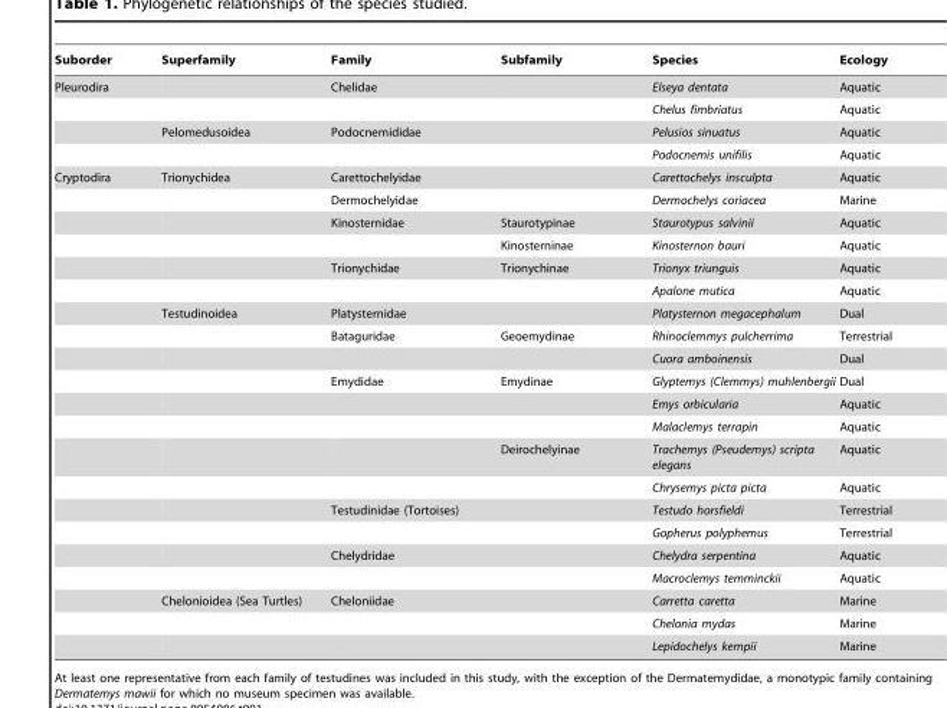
<table><thead><tr><td>Suborder</td><td>Superfamily</td><td>Family</td><td>Subfamily</td><td>Species</td><td>Ecology</td></tr></thead><tbody><tr><td rowspan="4">Pleurodira</td><td></td><td>Chelidae</td><td></td><td>Elseya dentata</td><td>Aquatic</td></tr><tr><td></td><td></td><td></td><td>Chelus fimbriatus</td><td>Aquatic</td></tr><tr><td>Pelomedusoidea</td><td>Podocnemididae</td><td></td><td>Pelusios sinuatus</td><td>Aquatic</td></tr><tr><td></td><td></td><td></td><td>Podocnemis unifilis</td><td>Aquatic</td></tr><tr><td rowspan="21">Cryptodira</td><td>Trionychidea</td><td>Carettochelyidae</td><td></td><td>Carettochelys insculpta</td><td>Aquatic</td></tr><tr><td></td><td>Dermochelyidae</td><td></td><td>Dermochelys coriacea</td><td>Marine</td></tr><tr><td></td><td>Kinosternidae</td><td>Staurotypinae</td><td>Staurotypus salvinii</td><td>Aquatic</td></tr><tr><td></td><td></td><td>Kinosterninae</td><td>Kinosternon bauri</td><td>Aquatic</td></tr><tr><td></td><td>Trionychidae</td><td>Trionychinae</td><td>Trionyx triunguis</td><td>Aquatic</td></tr><tr><td></td><td></td><td></td><td>Apalone mutica</td><td>Aquatic</td></tr><tr><td>Testudinoidea</td><td>Platysternidae</td><td></td><td>Platysternon megacephalum</td><td>Dual</td></tr><tr><td></td><td>Bataguridae</td><td>Geoemydinae</td><td>Rhinoclemmys pulcherrima</td><td>Terrestrial</td></tr><tr><td></td><td></td><td></td><td>Cuora amboinensis</td><td>Dual</td></tr><tr><td></td><td>Emydidae</td><td>Emydinae</td><td>Glyptemys (Clemmys) muhlenbergii</td><td>Dual</td></tr><tr><td></td><td></td><td></td><td>Emys orbicularia</td><td>Aquatic</td></tr><tr><td></td><td></td><td></td><td>Malaclemys terrapin</td><td>Aquatic</td></tr><tr><td></td><td></td><td>Deirochelyinae</td><td>Trachemys (Pseudemys) scripta elegans</td><td>Aquatic</td></tr><tr><td></td><td></td><td></td><td>Chrysemys picta picta</td><td>Aquatic</td></tr><tr><td></td><td>Testudinidae (Tortoises)</td><td></td><td>Testudo horsfieldi</td><td>Terrestrial</td></tr><tr><td></td><td></td><td></td><td>Gopherus polyphemus</td><td>Terrestrial</td></tr><tr><td></td><td>Chelydridae</td><td></td><td>Chelydra serpentina</td><td>Aquatic</td></tr><tr><td></td><td></td><td></td><td>Macroclemys temminckii</td><td>Aquatic</td></tr><tr><td>Chelonioidea (Sea Turtles)</td><td>Cheloniidae</td><td></td><td>Carretta caretta</td><td>Marine</td></tr><tr><td></td><td></td><td></td><td>Chelonia mydas</td><td>Marine</td></tr><tr><td></td><td></td><td></td><td>Lepidochelys kempii</td><td>Marine</td></tr></tbody></table>